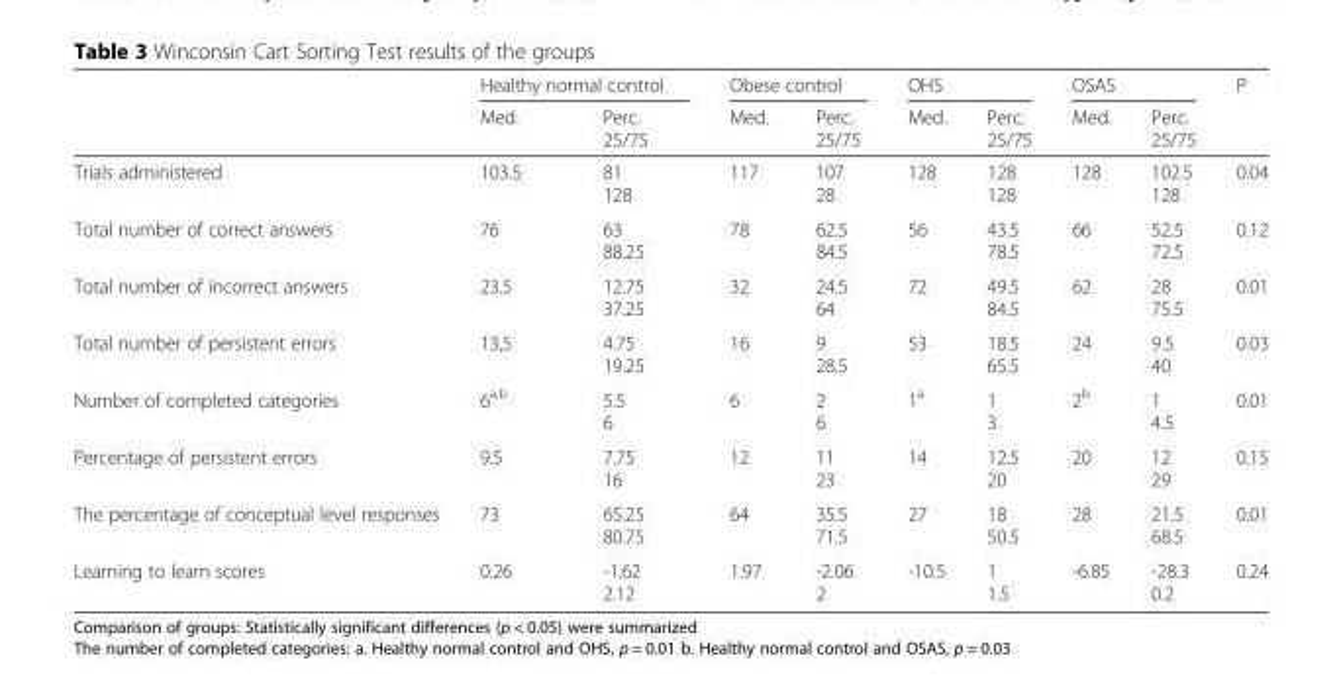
<table><thead><tr><td rowspan="2"></td><td colspan="2">Healthy normal control</td><td colspan="2">Obese control</td><td colspan="2">OHS</td><td colspan="2">OSAS</td><td rowspan="2">P</td></tr><tr><td>Med.</td><td>Perc. 25/75</td><td>Med.</td><td>Perc. 25/75</td><td>Med.</td><td>Perc. 25/75</td><td>Med.</td><td>Perc. 25/75</td></tr></thead><tbody><tr><td>Trials administered</td><td>103.5</td><td>81 128</td><td>117</td><td>107 28</td><td>128</td><td>128 128</td><td>128</td><td>102.5 128</td><td>0.04</td></tr><tr><td>Total number of correct answers</td><td>76</td><td>63 88.25</td><td>78</td><td>62.5 84.5</td><td>56</td><td>43.5 78.5</td><td>66</td><td>52.5 72.5</td><td>0.12</td></tr><tr><td>Total number of incorrect answers</td><td>23.5</td><td>12.75 37.25</td><td>32</td><td>24.5 64</td><td>72</td><td>49.5 84.5</td><td>62</td><td>28 75.5</td><td>0.01</td></tr><tr><td>Total number of persistent errors</td><td>13,5</td><td>4.75 19.25</td><td>16</td><td>9 28.5</td><td>53</td><td>18.5 65.5</td><td>24</td><td>9.5 40</td><td>0.03</td></tr><tr><td>Number of completed categories</td><td>6<sup>a,b</sup></td><td>5.5 6</td><td>6</td><td>2 6</td><td>1<sup>a</sup></td><td>1 3</td><td>2<sup>b</sup></td><td>1 4.5</td><td>0.01</td></tr><tr><td>Percentage of persistent errors</td><td>9.5</td><td>7.75 16</td><td>12</td><td>11 23</td><td>14</td><td>12.5 20</td><td>20</td><td>12 29</td><td>0.15</td></tr><tr><td>The percentage of conceptual level responses</td><td>73</td><td>65.25 80.75</td><td>64</td><td>35.5 71.5</td><td>27</td><td>18 50.5</td><td>28</td><td>21.5 68.5</td><td>0.01</td></tr><tr><td>Learning to learn scores</td><td>0.26</td><td>-1.62 2.12</td><td>1.97</td><td>-2.06 2</td><td>-10.5</td><td>1 1.5</td><td>-6.85</td><td>-28.3 0.2</td><td>0.24</td></tr></tbody></table>